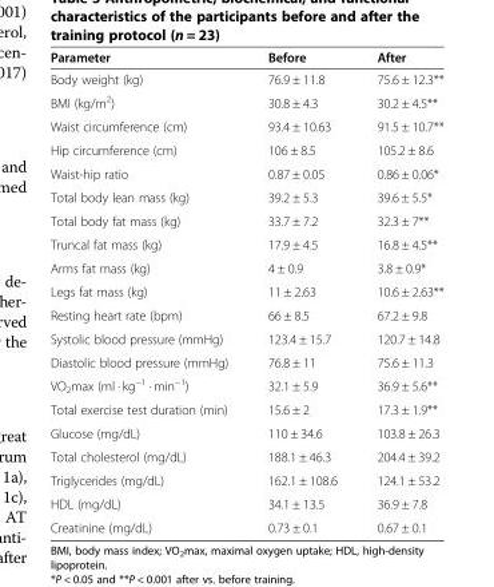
<table><thead><tr><td>Parameter</td><td>Before</td><td>After</td></tr></thead><tbody><tr><td>Body weight (kg)</td><td>76.9 ± 11.8</td><td>75.6 ± 12.3**</td></tr><tr><td>BMI (kg/m<sup>2</sup>)</td><td>30.8 ± 4.3</td><td>30.2 ± 4.5**</td></tr><tr><td>Waist circumference (cm)</td><td>93.4 ± 10.63</td><td>91.5 ± 10.7**</td></tr><tr><td>Hip circumference (cm)</td><td>106 ± 8.5</td><td>105.2 ± 8.6</td></tr><tr><td>Waist-hip ratio</td><td>0.87 ± 0.05</td><td>0.86 ± 0.06*</td></tr><tr><td>Total body lean mass (kg)</td><td>39.2 ± 5.3</td><td>39.6 ± 5.5*</td></tr><tr><td>Total body fat mass (kg)</td><td>33.7 ± 7.2</td><td>32.3 ± 7**</td></tr><tr><td>Truncal fat mass (kg)</td><td>17.9 ± 4.5</td><td>16.8 ± 4.5**</td></tr><tr><td>Arms fat mass (kg)</td><td>4 ± 0.9</td><td>3.8 ± 0.9*</td></tr><tr><td>Legs fat mass (kg)</td><td>11 ± 2.63</td><td>10.6 ± 2.63**</td></tr><tr><td>Resting heart rate (bpm)</td><td>66 ± 8.5</td><td>67.2 ± 9.8</td></tr><tr><td>Systolic blood pressure (mmHg)</td><td>123.4 ± 15.7</td><td>120.7 ± 14.8</td></tr><tr><td>Diastolic blood pressure (mmHg)</td><td>76.8 ± 11</td><td>75.6 ± 11.3</td></tr><tr><td>VO<sub>2</sub>max (ml · kg<sup>−1</sup> · min<sup>−1</sup>)</td><td>32.1 ± 5.9</td><td>36.9 ± 5.6**</td></tr><tr><td>Total exercise test duration (min)</td><td>15.6 ± 2</td><td>17.3 ± 1.9**</td></tr><tr><td>Glucose (mg/dL)</td><td>110 ± 34.6</td><td>103.8 ± 26.3</td></tr><tr><td>Total cholesterol (mg/dL)</td><td>188.1 ± 46.3</td><td>204.4 ± 39.2</td></tr><tr><td>Triglycerides (mg/dL)</td><td>162.1 ± 108.6</td><td>124.1 ± 53.2</td></tr><tr><td>HDL (mg/dL)</td><td>34.1 ± 13.5</td><td>36.9 ± 7.8</td></tr><tr><td>Creatinine (mg/dL)</td><td>0.73 ± 0.1</td><td>0.67 ± 0.1</td></tr></tbody></table>